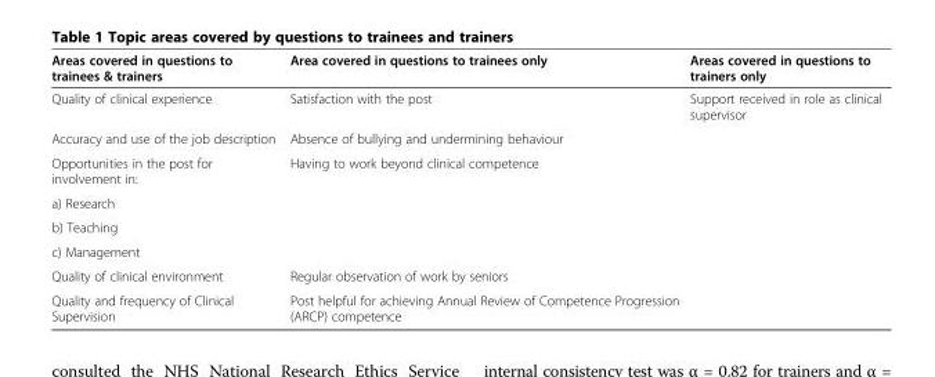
<table><thead><tr><td>Areas covered in questions to trainees &amp; trainers</td><td>Area covered in questions to trainees only</td><td>Areas covered in questions to trainers only</td></tr></thead><tbody><tr><td>Quality of clinical experience</td><td>Satisfaction with the post</td><td>Support received in role as clinical supervisor</td></tr><tr><td>Accuracy and use of the job description</td><td>Absence of bullying and undermining behaviour</td><td></td></tr><tr><td>Opportunities in the post for involvement in:</td><td rowspan="4">Having to work beyond clinical competence</td><td rowspan="4"></td></tr><tr><td>a) Research</td></tr><tr><td>b) Teaching</td></tr><tr><td>c) Management</td></tr><tr><td>Quality of clinical environment</td><td>Regular observation of work by seniors</td><td></td></tr><tr><td>Quality and frequency of Clinical Supervision</td><td>Post helpful for achieving Annual Review of Competence Progression (ARCP) competence</td><td></td></tr></tbody></table>